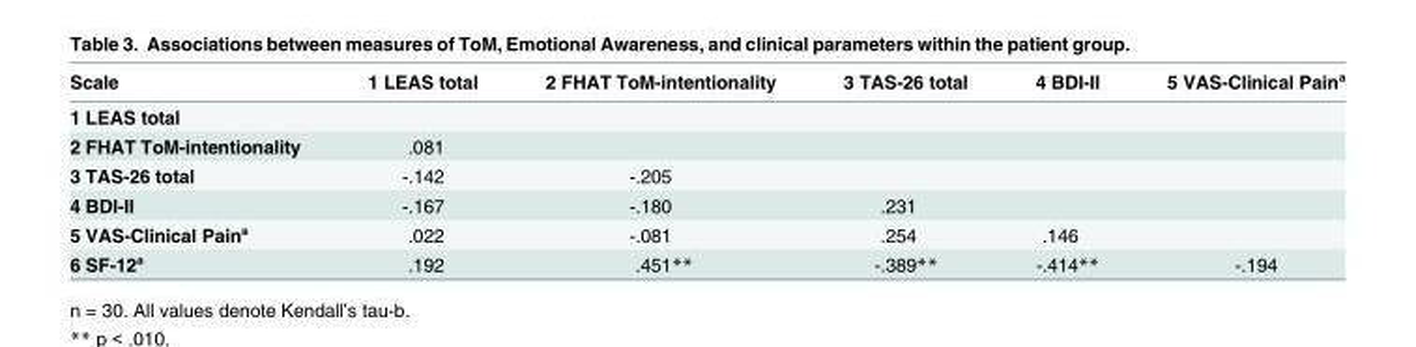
<table><thead><tr><td>Scale</td><td>1 LEAS total</td><td>2 FHAT ToM-intentionality</td><td>3 TAS-26 total</td><td>4 BDI-II</td><td>5 VAS-Clinical Painª</td></tr></thead><tbody><tr><td colspan="6">1 LEAS total</td></tr><tr><td>2 FHAT ToM-intentionality</td><td>.081</td><td></td><td></td><td></td><td></td></tr><tr><td>3 TAS-26 total</td><td>-.142</td><td>-.205</td><td></td><td></td><td></td></tr><tr><td>4 BDI-II</td><td>-.167</td><td>-.180</td><td>.231</td><td></td><td></td></tr><tr><td>5 VAS-Clinical Painª</td><td>.022</td><td>-.081</td><td>.254</td><td>.146</td><td></td></tr><tr><td>6 SF-12ª</td><td>.192</td><td>.451**</td><td>-.389**</td><td>-.414**</td><td>-.194</td></tr></tbody></table>